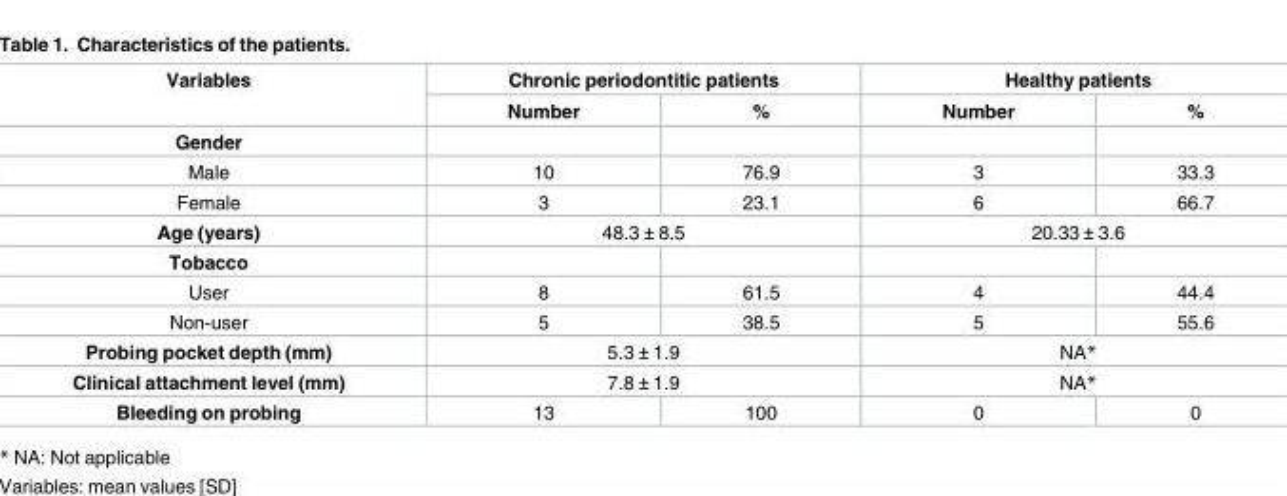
<table><thead><tr><td rowspan="2">Variables</td><td colspan="2">Chronic periodontitic patients</td><td colspan="2">Healthy patients</td></tr><tr><td>Number</td><td>%</td><td>Number</td><td>%</td></tr></thead><tbody><tr><td colspan="5">Gender</td></tr><tr><td>Male</td><td>10</td><td>76.9</td><td>3</td><td>33.3</td></tr><tr><td>Female</td><td>3</td><td>23.1</td><td>6</td><td>66.7</td></tr><tr><td>Age (years)</td><td colspan="2">48.3 ± 8.5</td><td colspan="2">20.33 ± 3.6</td></tr><tr><td colspan="5">Tobacco</td></tr><tr><td>User</td><td>8</td><td>61.5</td><td>4</td><td>44.4</td></tr><tr><td>Non-user</td><td>5</td><td>38.5</td><td>5</td><td>55.6</td></tr><tr><td>Probing pocket depth (mm)</td><td colspan="2">5.3 ± 1.9</td><td colspan="2">NA*</td></tr><tr><td>Clinical attachment level (mm)</td><td colspan="2">7.8 ± 1.9</td><td colspan="2">NA*</td></tr><tr><td>Bleeding on probing</td><td>13</td><td>100</td><td>0</td><td>0</td></tr></tbody></table>